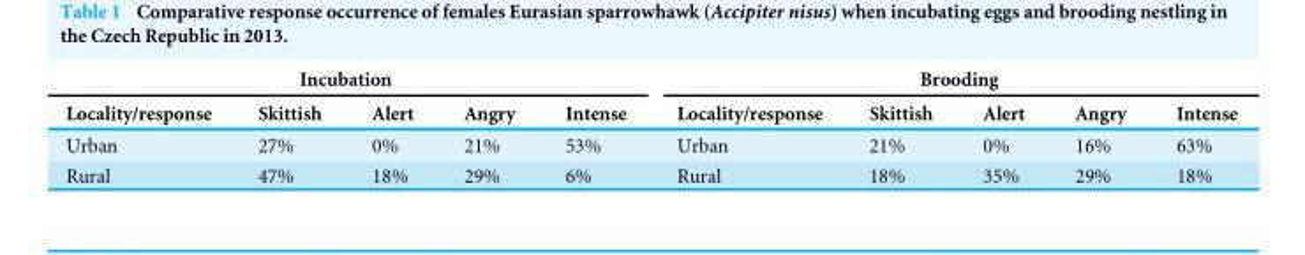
<table><thead><tr><td colspan="5">Incubation</td><td colspan="5">Brooding</td></tr><tr><td>Locality/response</td><td>Skittish</td><td>Alert</td><td>Angry</td><td>Intense</td><td>Locality/response</td><td>Skittish</td><td>Alert</td><td>Angry</td><td>Intense</td></tr></thead><tbody><tr><td>Urban</td><td>27%</td><td>0%</td><td>21%</td><td>53%</td><td>Urban</td><td>21%</td><td>0%</td><td>16%</td><td>63%</td></tr><tr><td>Rural</td><td>47%</td><td>18%</td><td>29%</td><td>6%</td><td>Rural</td><td>18%</td><td>35%</td><td>29%</td><td>18%</td></tr></tbody></table>